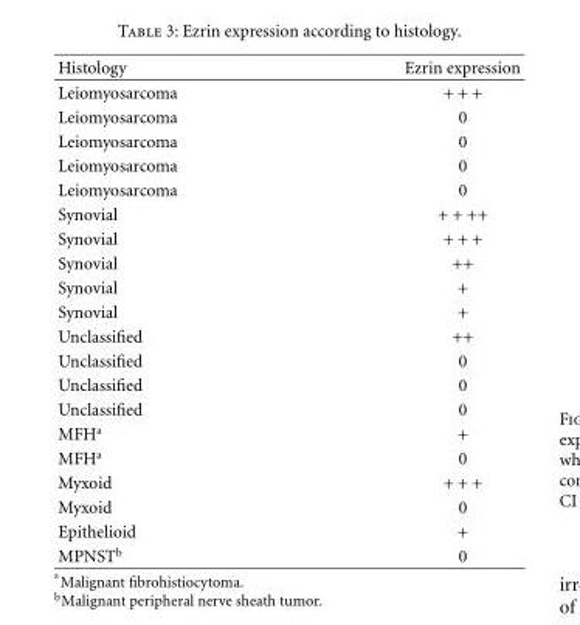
<table><thead><tr><td>Histology</td><td>Ezrin expression</td></tr></thead><tbody><tr><td>Leiomyosarcoma</td><td>+ + +</td></tr><tr><td>Leiomyosarcoma</td><td>0</td></tr><tr><td>Leiomyosarcoma</td><td>0</td></tr><tr><td>Leiomyosarcoma</td><td>0</td></tr><tr><td>Leiomyosarcoma</td><td>0</td></tr><tr><td>Synovial</td><td>+ + ++</td></tr><tr><td>Synovial</td><td>+ + +</td></tr><tr><td>Synovial</td><td>++</td></tr><tr><td>Synovial</td><td>+</td></tr><tr><td>Synovial</td><td>+</td></tr><tr><td>Unclassified</td><td>++</td></tr><tr><td>Unclassified</td><td>0</td></tr><tr><td>Unclassified</td><td>0</td></tr><tr><td>Unclassified</td><td>0</td></tr><tr><td>MFH<sup>a</sup></td><td>+</td></tr><tr><td>MFH<sup>a</sup></td><td>0</td></tr><tr><td>Myxoid</td><td>+ + +</td></tr><tr><td>Myxoid</td><td>0</td></tr><tr><td>Epithelioid</td><td>+</td></tr><tr><td>MPNST<sup>b</sup></td><td>0</td></tr></tbody></table>